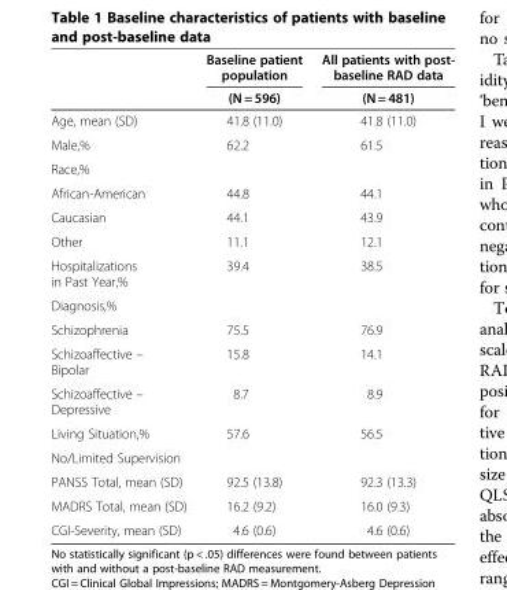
<table><thead><tr><td rowspan="2"></td><td rowspan="2">Baseline patient population (N = 596)</td><td rowspan="2">All patients with post- baseline RAD data (N = 481)</td></tr><tr></tr></thead><tbody><tr><td>Age, mean (SD)</td><td>41.8 (11.0)</td><td>41.8 (11.0)</td></tr><tr><td>Male,%</td><td>62.2</td><td>61.5</td></tr><tr><td colspan="3">Race,%</td></tr><tr><td>African-American</td><td>44.8</td><td>44.1</td></tr><tr><td>Caucasian</td><td>44.1</td><td>43.9</td></tr><tr><td>Other</td><td>11.1</td><td>12.1</td></tr><tr><td>Hospitalizations in Past Year,%</td><td>39.4</td><td>38.5</td></tr><tr><td colspan="3">Diagnosis,%</td></tr><tr><td>Schizophrenia</td><td>75.5</td><td>76.9</td></tr><tr><td>Schizoaffective – Bipolar</td><td>15.8</td><td>14.1</td></tr><tr><td>Schizoaffective – Depressive</td><td>8.7</td><td>8.9</td></tr><tr><td>Living Situation,%</td><td>57.6</td><td>56.5</td></tr><tr><td colspan="3">No/Limited Supervision</td></tr><tr><td>PANSS Total, mean (SD)</td><td>92.5 (13.8)</td><td>92.3 (13.3)</td></tr><tr><td>MADRS Total, mean (SD)</td><td>16.2 (9.2)</td><td>16.0 (9.3)</td></tr><tr><td>CGI-Severity, mean (SD)</td><td>4.6 (0.6)</td><td>4.6 (0.6)</td></tr></tbody></table>